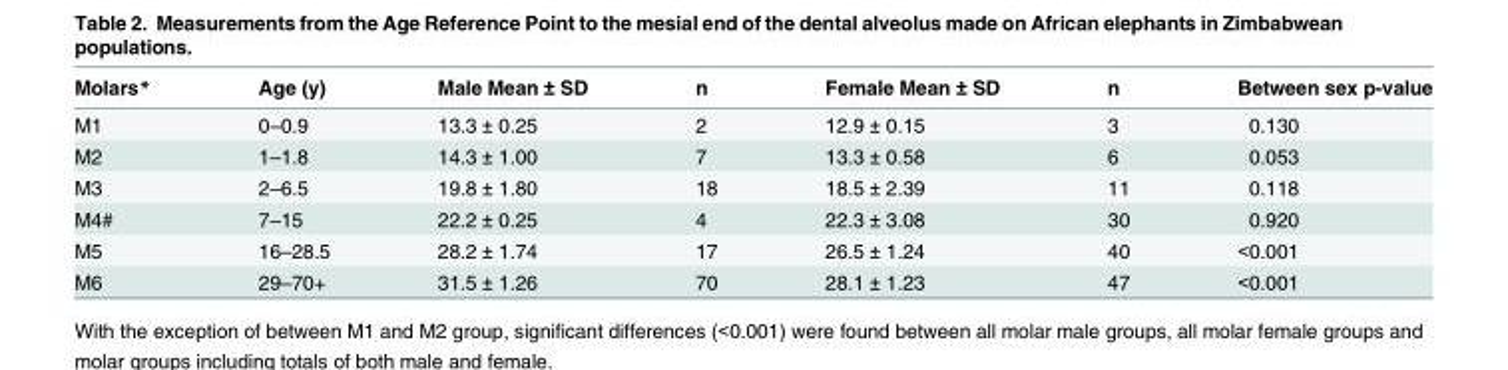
<table><thead><tr><td>Molars*</td><td>Age (y)</td><td>Male Mean ± SD</td><td>n</td><td>Female Mean ± SD</td><td>n</td><td>Between sex p-value</td></tr></thead><tbody><tr><td>M1</td><td>0–0.9</td><td>13.3 ± 0.25</td><td>2</td><td>12.9 ± 0.15</td><td>3</td><td>0.130</td></tr><tr><td>M2</td><td>1–1.8</td><td>14.3 ± 1.00</td><td>7</td><td>13.3 ± 0.58</td><td>6</td><td>0.053</td></tr><tr><td>M3</td><td>2–6.5</td><td>19.8 ± 1.80</td><td>18</td><td>18.5 ± 2.39</td><td>11</td><td>0.118</td></tr><tr><td>M4#</td><td>7–15</td><td>22.2 ± 0.25</td><td>4</td><td>22.3 ± 3.08</td><td>30</td><td>0.920</td></tr><tr><td>M5</td><td>16–28.5</td><td>28.2 ± 1.74</td><td>17</td><td>26.5 ± 1.24</td><td>40</td><td>&lt;0.001</td></tr><tr><td>M6</td><td>29–70+</td><td>31.5 ± 1.26</td><td>70</td><td>28.1 ± 1.23</td><td>47</td><td>&lt;0.001</td></tr></tbody></table>